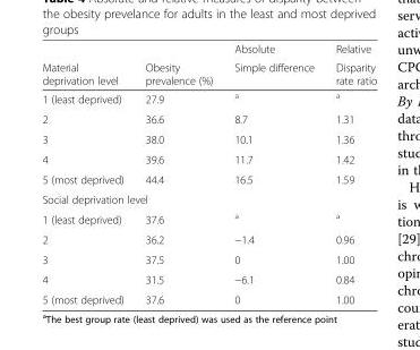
<table><thead><tr><td rowspan="2">Material deprivation level</td><td rowspan="2">Obesity prevalence (%)</td><td rowspan="2">Absolute Simple difference</td><td rowspan="2">Relative Disparity rate ratio</td></tr><tr></tr></thead><tbody><tr><td>1 (least deprived)</td><td>27.9</td><td><sup>a</sup></td><td><sup>a</sup></td></tr><tr><td>2</td><td>36.6</td><td>8.7</td><td>1.31</td></tr><tr><td>3</td><td>38.0</td><td>10.1</td><td>1.36</td></tr><tr><td>4</td><td>39.6</td><td>11.7</td><td>1.42</td></tr><tr><td>5 (most deprived)</td><td>44.4</td><td>16.5</td><td>1.59</td></tr><tr><td colspan="4">Social deprivation level</td></tr><tr><td>1 (least deprived)</td><td>37.6</td><td><sup>a</sup></td><td><sup>a</sup></td></tr><tr><td>2</td><td>36.2</td><td>−1.4</td><td>0.96</td></tr><tr><td>3</td><td>37.5</td><td>0</td><td>1.00</td></tr><tr><td>4</td><td>31.5</td><td>−6.1</td><td>0.84</td></tr><tr><td>5 (most deprived)</td><td>37.6</td><td>0</td><td>1.00</td></tr></tbody></table>